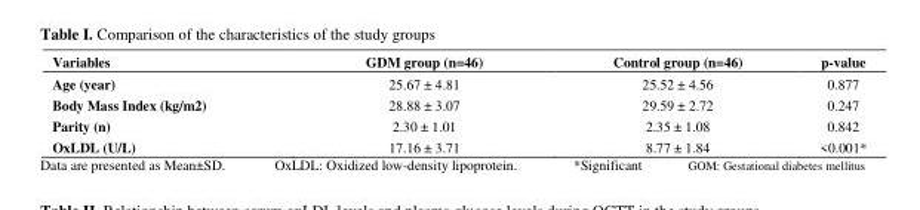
<table><thead><tr><td>Variables</td><td>GDM group (n=46)</td><td>Control group (n=46)</td><td>p-value</td></tr></thead><tbody><tr><td>Age (year)</td><td>25.67 ± 4.81</td><td>25.52 ± 4.56</td><td>0.877</td></tr><tr><td>Body Mass Index (kg/m2)</td><td>28.88 ± 3.07</td><td>29.59 ± 2.72</td><td>0.247</td></tr><tr><td>Parity (n)</td><td>2.30 ± 1.01</td><td>2.35 ± 1.08</td><td>0.842</td></tr><tr><td>OxLDL (U/L)</td><td>17.16 ± 3.71</td><td>8.77 ± 1.84</td><td>&lt;0.001*</td></tr></tbody></table>